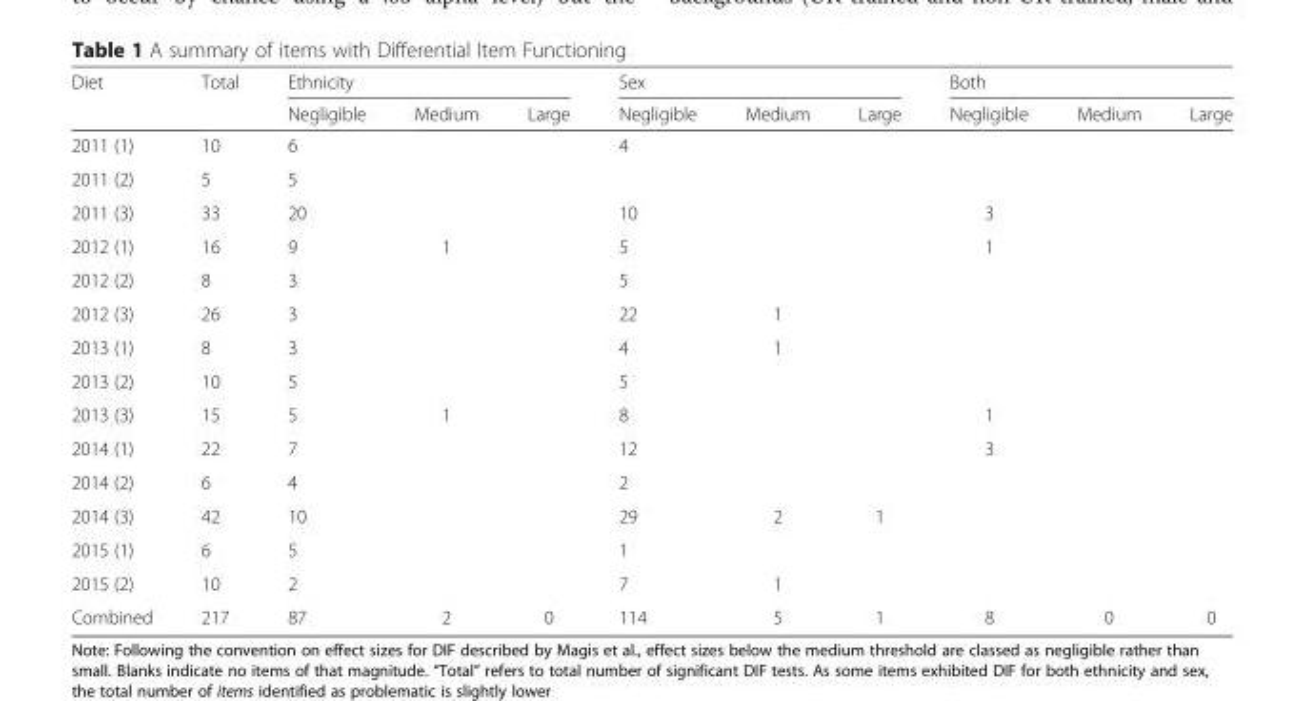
<table><thead><tr><td rowspan="2">Diet</td><td rowspan="2">Total</td><td colspan="3">Ethnicity</td><td colspan="3">Sex</td><td colspan="3">Both</td></tr><tr><td>Negligible</td><td>Medium</td><td>Large</td><td>Negligible</td><td>Medium</td><td>Large</td><td>Negligible</td><td>Medium</td><td>Large</td></tr></thead><tbody><tr><td>2011 (1)</td><td>10</td><td>6</td><td></td><td></td><td>4</td><td></td><td></td><td></td><td></td><td></td></tr><tr><td>2011 (2)</td><td>5</td><td>5</td><td></td><td></td><td></td><td></td><td></td><td></td><td></td><td></td></tr><tr><td>2011 (3)</td><td>33</td><td>20</td><td></td><td></td><td>10</td><td></td><td></td><td>3</td><td></td><td></td></tr><tr><td>2012 (1)</td><td>16</td><td>9</td><td>1</td><td></td><td>5</td><td></td><td></td><td>1</td><td></td><td></td></tr><tr><td>2012 (2)</td><td>8</td><td>3</td><td></td><td></td><td>5</td><td></td><td></td><td></td><td></td><td></td></tr><tr><td>2012 (3)</td><td>26</td><td>3</td><td></td><td></td><td>22</td><td>1</td><td></td><td></td><td></td><td></td></tr><tr><td>2013 (1)</td><td>8</td><td>3</td><td></td><td></td><td>4</td><td>1</td><td></td><td></td><td></td><td></td></tr><tr><td>2013 (2)</td><td>10</td><td>5</td><td></td><td></td><td>5</td><td></td><td></td><td></td><td></td><td></td></tr><tr><td>2013 (3)</td><td>15</td><td>5</td><td>1</td><td></td><td>8</td><td></td><td></td><td>1</td><td></td><td></td></tr><tr><td>2014 (1)</td><td>22</td><td>7</td><td></td><td></td><td>12</td><td></td><td></td><td>3</td><td></td><td></td></tr><tr><td>2014 (2)</td><td>6</td><td>4</td><td></td><td></td><td>2</td><td></td><td></td><td></td><td></td><td></td></tr><tr><td>2014 (3)</td><td>42</td><td>10</td><td></td><td></td><td>29</td><td>2</td><td>1</td><td></td><td></td><td></td></tr><tr><td>2015 (1)</td><td>6</td><td>5</td><td></td><td></td><td>1</td><td></td><td></td><td></td><td></td><td></td></tr><tr><td>2015 (2)</td><td>10</td><td>2</td><td></td><td></td><td>7</td><td>1</td><td></td><td></td><td></td><td></td></tr><tr><td>Combined</td><td>217</td><td>87</td><td>2</td><td>0</td><td>114</td><td>5</td><td>1</td><td>8</td><td>0</td><td>0</td></tr></tbody></table>